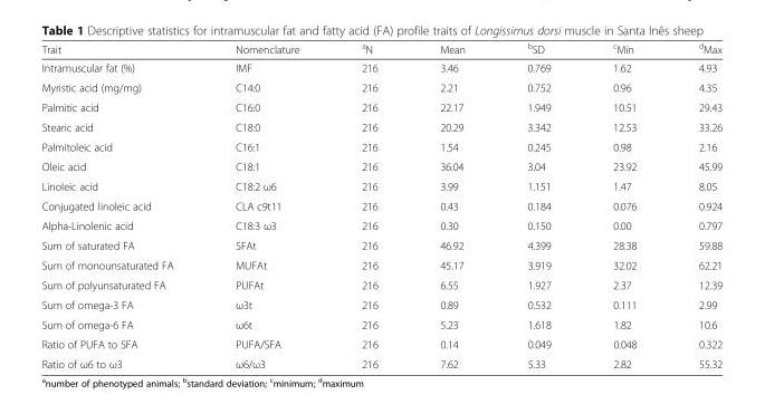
<table><thead><tr><td>Trait</td><td>Nomenclature</td><td><sup>a</sup>N</td><td>Mean</td><td><sup>b</sup>SD</td><td><sup>c</sup>Min</td><td><sup>d</sup>Max</td></tr></thead><tbody><tr><td>Intramuscular fat (%)</td><td>IMF</td><td>216</td><td>3.46</td><td>0.769</td><td>1.62</td><td>4.93</td></tr><tr><td>Myristic acid (mg/mg)</td><td>C14:0</td><td>216</td><td>2.21</td><td>0.752</td><td>0.96</td><td>4.35</td></tr><tr><td>Palmitic acid</td><td>C16:0</td><td>216</td><td>22.17</td><td>1.949</td><td>10.51</td><td>29.43</td></tr><tr><td>Stearic acid</td><td>C18:0</td><td>216</td><td>20.29</td><td>3.342</td><td>12.53</td><td>33.26</td></tr><tr><td>Palmitoleic acid</td><td>C16:1</td><td>216</td><td>1.54</td><td>0.245</td><td>0.98</td><td>2.16</td></tr><tr><td>Oleic acid</td><td>C18:1</td><td>216</td><td>36.04</td><td>3.04</td><td>23.92</td><td>45.99</td></tr><tr><td>Linoleic acid</td><td>C18:2 ω6</td><td>216</td><td>3.99</td><td>1.151</td><td>1.47</td><td>8.05</td></tr><tr><td>Conjugated linoleic acid</td><td>CLA c9t11</td><td>216</td><td>0.43</td><td>0.184</td><td>0.076</td><td>0.924</td></tr><tr><td>Alpha-Linolenic acid</td><td>C18:3 ω3</td><td>216</td><td>0.30</td><td>0.150</td><td>0.00</td><td>0.797</td></tr><tr><td>Sum of saturated FA</td><td>SFAt</td><td>216</td><td>46.92</td><td>4.399</td><td>28.38</td><td>59.88</td></tr><tr><td>Sum of monounsaturated FA</td><td>MUFAt</td><td>216</td><td>45.17</td><td>3.919</td><td>32.02</td><td>62.21</td></tr><tr><td>Sum of polyunsaturated FA</td><td>PUFAt</td><td>216</td><td>6.55</td><td>1.927</td><td>2.37</td><td>12.39</td></tr><tr><td>Sum of omega-3 FA</td><td>ω3t</td><td>216</td><td>0.89</td><td>0.532</td><td>0.111</td><td>2.99</td></tr><tr><td>Sum of omega-6 FA</td><td>ω6t</td><td>216</td><td>5.23</td><td>1.618</td><td>1.82</td><td>10.6</td></tr><tr><td>Ratio of PUFA to SFA</td><td>PUFA/SFA</td><td>216</td><td>0.14</td><td>0.049</td><td>0.048</td><td>0.322</td></tr><tr><td>Ratio of ω6 to ω3</td><td>ω6/ω3</td><td>216</td><td>7.62</td><td>5.33</td><td>2.82</td><td>55.32</td></tr></tbody></table>